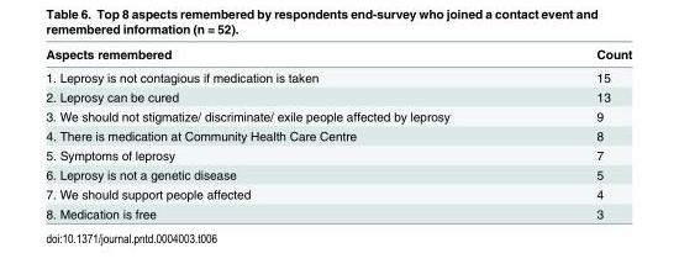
<table><thead><tr><td>Aspects remembered</td><td>Count</td></tr></thead><tbody><tr><td>1. Leprosy is not contagious if medication is taken</td><td>15</td></tr><tr><td>2. Leprosy can be cured</td><td>13</td></tr><tr><td>3. We should not stigmatize/ discriminate/ exile people affected by leprosy</td><td>9</td></tr><tr><td>4. There is medication at Community Health Care Centre</td><td>8</td></tr><tr><td>5. Symptoms of leprosy</td><td>7</td></tr><tr><td>6. Leprosy is not a genetic disease</td><td>5</td></tr><tr><td>7. We should support people affected</td><td>4</td></tr><tr><td>8. Medication is free</td><td>3</td></tr></tbody></table>